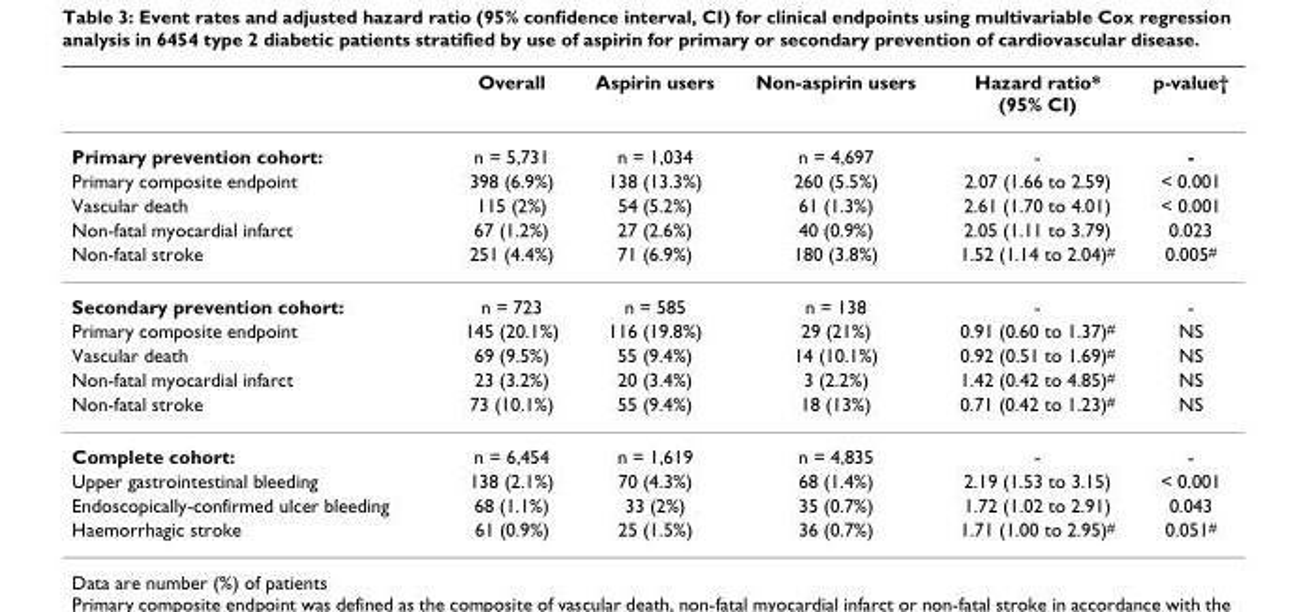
<table><thead><tr><td></td><td>Overall</td><td>Aspirin users</td><td>Non-aspirin users</td><td>Hazard ratio* (95% CI)</td><td>p-value†</td></tr></thead><tbody><tr><td>Primary prevention cohort:</td><td>n = 5,731</td><td>n = 1,034</td><td>n = 4,697</td><td>-</td><td>-</td></tr><tr><td>Primary composite endpoint</td><td>398 (6.9%)</td><td>138 (13.3%)</td><td>260 (5.5%)</td><td>2.07 (1.66 to 2.59)</td><td>&lt; 0.001</td></tr><tr><td>Vascular death</td><td>115 (2%)</td><td>54 (5.2%)</td><td>61 (1.3%)</td><td>2.61 (1.70 to 4.01)</td><td>&lt; 0.001</td></tr><tr><td>Non-fatal myocardial infarct</td><td>67 (1.2%)</td><td>27 (2.6%)</td><td>40 (0.9%)</td><td>2.05 (1.11 to 3.79)</td><td>0.023</td></tr><tr><td>Non-fatal stroke</td><td>251 (4.4%)</td><td>71 (6.9%)</td><td>180 (3.8%)</td><td>1.52 (1.14 to 2.04)<sup>#</sup></td><td>0.005<sup>#</sup></td></tr><tr><td>Secondary prevention cohort:</td><td>n = 723</td><td>n = 585</td><td>n = 138</td><td>-</td><td>-</td></tr><tr><td>Primary composite endpoint</td><td>145 (20.1%)</td><td>116 (19.8%)</td><td>29 (21%)</td><td>0.91 (0.60 to 1.37)<sup>#</sup></td><td>NS</td></tr><tr><td>Vascular death</td><td>69 (9.5%)</td><td>55 (9.4%)</td><td>14 (10.1%)</td><td>0.92 (0.51 to 1.69)<sup>#</sup></td><td>NS</td></tr><tr><td>Non-fatal myocardial infarct</td><td>23 (3.2%)</td><td>20 (3.4%)</td><td>3 (2.2%)</td><td>1.42 (0.42 to 4.85)<sup>#</sup></td><td>NS</td></tr><tr><td>Non-fatal stroke</td><td>73 (10.1%)</td><td>55 (9.4%)</td><td>18 (13%)</td><td>0.71 (0.42 to 1.23)<sup>#</sup></td><td>NS</td></tr><tr><td>Complete cohort:</td><td>n = 6,454</td><td>n = 1,619</td><td>n = 4,835</td><td>-</td><td>-</td></tr><tr><td>Upper gastrointestinal bleeding</td><td>138 (2.1%)</td><td>70 (4.3%)</td><td>68 (1.4%)</td><td>2.19 (1.53 to 3.15)</td><td>&lt; 0.001</td></tr><tr><td>Endoscopically-confirmed ulcer bleeding</td><td>68 (1.1%)</td><td>33 (2%)</td><td>35 (0.7%)</td><td>1.72 (1.02 to 2.91)</td><td>0.043</td></tr><tr><td>Haemorrhagic stroke</td><td>61 (0.9%)</td><td>25 (1.5%)</td><td>36 (0.7%)</td><td>1.71 (1.00 to 2.95)<sup>#</sup></td><td>0.051<sup>#</sup></td></tr></tbody></table>